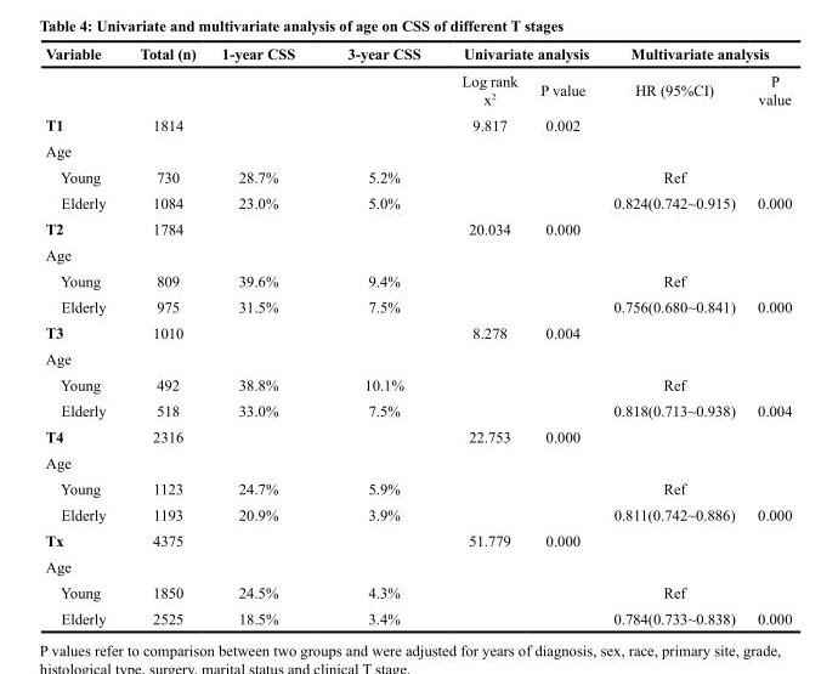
<table><thead><tr><td rowspan="2">Variable</td><td rowspan="2">Total (n)</td><td rowspan="2">1-year CSS</td><td rowspan="2">3-year CSS</td><td colspan="2">Univariate analysis</td><td colspan="2">Multivariate analysis</td></tr><tr><td>Log rank x<sup>2</sup></td><td>P value</td><td>HR (95%CI)</td><td>P value</td></tr></thead><tbody><tr><td>T1</td><td>1814</td><td></td><td></td><td>9.817</td><td>0.002</td><td></td><td></td></tr><tr><td colspan="8">Age</td></tr><tr><td>Young</td><td>730</td><td>28.7%</td><td>5.2%</td><td></td><td></td><td>Ref</td><td></td></tr><tr><td>Elderly</td><td>1084</td><td>23.0%</td><td>5.0%</td><td></td><td></td><td>0.824(0.742~0.915)</td><td>0.000</td></tr><tr><td>T2</td><td>1784</td><td></td><td></td><td>20.034</td><td>0.000</td><td></td><td></td></tr><tr><td colspan="8">Age</td></tr><tr><td>Young</td><td>809</td><td>39.6%</td><td>9.4%</td><td></td><td></td><td>Ref</td><td></td></tr><tr><td>Elderly</td><td>975</td><td>31.5%</td><td>7.5%</td><td></td><td></td><td>0.756(0.680~0.841)</td><td>0.000</td></tr><tr><td>T3</td><td>1010</td><td></td><td></td><td>8.278</td><td>0.004</td><td></td><td></td></tr><tr><td colspan="8">Age</td></tr><tr><td>Young</td><td>492</td><td>38.8%</td><td>10.1%</td><td></td><td></td><td>Ref</td><td></td></tr><tr><td>Elderly</td><td>518</td><td>33.0%</td><td>7.5%</td><td></td><td></td><td>0.818(0.713~0.938)</td><td>0.004</td></tr><tr><td>T4</td><td>2316</td><td></td><td></td><td>22.753</td><td>0.000</td><td></td><td></td></tr><tr><td colspan="8">Age</td></tr><tr><td>Young</td><td>1123</td><td>24.7%</td><td>5.9%</td><td></td><td></td><td>Ref</td><td></td></tr><tr><td>Elderly</td><td>1193</td><td>20.9%</td><td>3.9%</td><td></td><td></td><td>0.811(0.742~0.886)</td><td>0.000</td></tr><tr><td>Tx</td><td>4375</td><td></td><td></td><td>51.779</td><td>0.000</td><td></td><td></td></tr><tr><td colspan="8">Age</td></tr><tr><td>Young</td><td>1850</td><td>24.5%</td><td>4.3%</td><td></td><td></td><td>Ref</td><td></td></tr><tr><td>Elderly</td><td>2525</td><td>18.5%</td><td>3.4%</td><td></td><td></td><td>0.784(0.733~0.838)</td><td>0.000</td></tr></tbody></table>